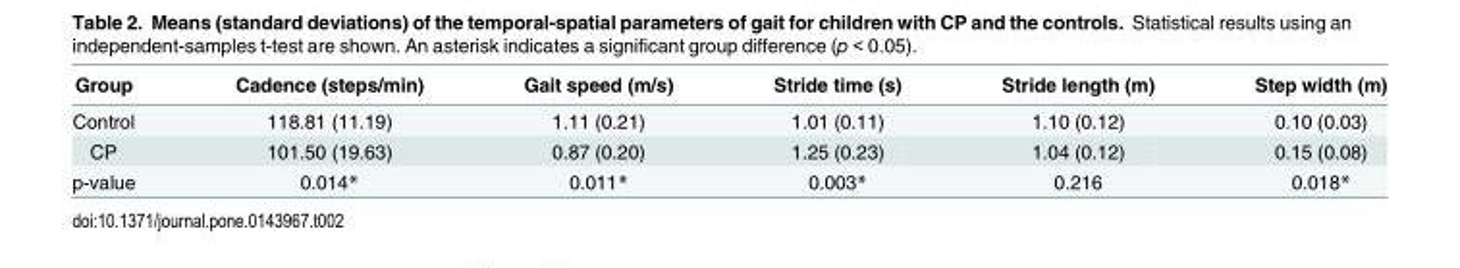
<table><thead><tr><td>Group</td><td>Cadence (steps/min)</td><td>Gait speed (m/s)</td><td>Stride time (s)</td><td>Stride length (m)</td><td>Step width (m)</td></tr></thead><tbody><tr><td>Control</td><td>118.81 (11.19)</td><td>1.11 (0.21)</td><td>1.01 (0.11)</td><td>1.10 (0.12)</td><td>0.10 (0.03)</td></tr><tr><td>CP</td><td>101.50 (19.63)</td><td>0.87 (0.20)</td><td>1.25 (0.23)</td><td>1.04 (0.12)</td><td>0.15 (0.08)</td></tr><tr><td>p-value</td><td>0.014*</td><td>0.011*</td><td>0.003*</td><td>0.216</td><td>0.018*</td></tr></tbody></table>